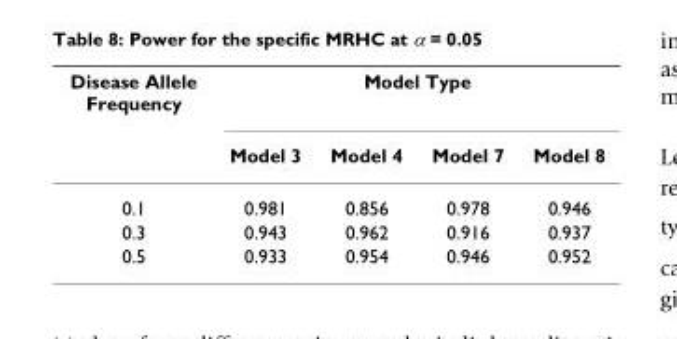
<table><thead><tr><td rowspan="2">Disease Allele Frequency</td><td colspan="4">Model Type</td></tr><tr><td>Model 3</td><td>Model 4</td><td>Model 7</td><td>Model 8</td></tr></thead><tbody><tr><td>0.1</td><td>0.981</td><td>0.856</td><td>0.978</td><td>0.946</td></tr><tr><td>0.3</td><td>0.943</td><td>0.962</td><td>0.916</td><td>0.937</td></tr><tr><td>0.5</td><td>0.933</td><td>0.954</td><td>0.946</td><td>0.952</td></tr></tbody></table>